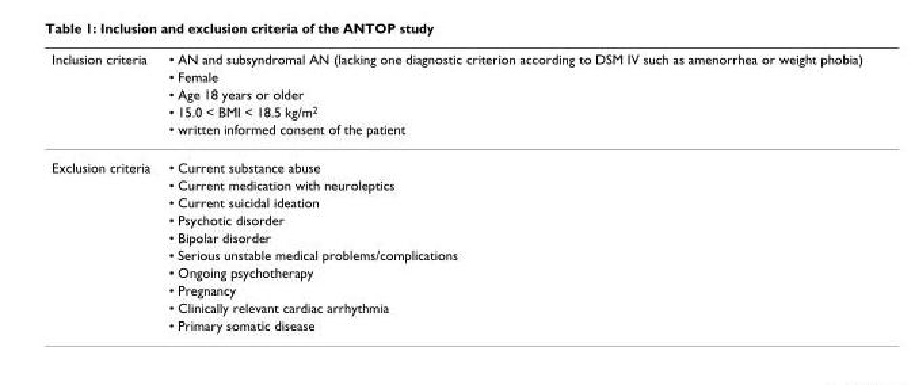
<table><thead><tr><td rowspan="5">Inclusion criteria</td><td rowspan="5">• AN and subsyndromal AN (lacking one diagnostic criterion according to DSM IV such as amenorrhea or weight phobia) • Female • Age 18 years or older • 15.0 &lt; BMI &lt; 18.5 kg/m2 • written informed consent of the patient</td></tr><tr></tr><tr></tr><tr></tr><tr></tr></thead><tbody><tr><td rowspan="10">Exclusion criteria</td><td>• Current substance abuse</td></tr><tr><td>• Current medication with neuroleptics</td></tr><tr><td>• Current suicidal ideation</td></tr><tr><td>• Psychotic disorder</td></tr><tr><td>• Bipolar disorder</td></tr><tr><td>• Serious unstable medical problems/complications</td></tr><tr><td>• Ongoing psychotherapy</td></tr><tr><td>• Pregnancy</td></tr><tr><td>• Clinically relevant cardiac arrhythmia</td></tr><tr><td>• Primary somatic disease</td></tr></tbody></table>